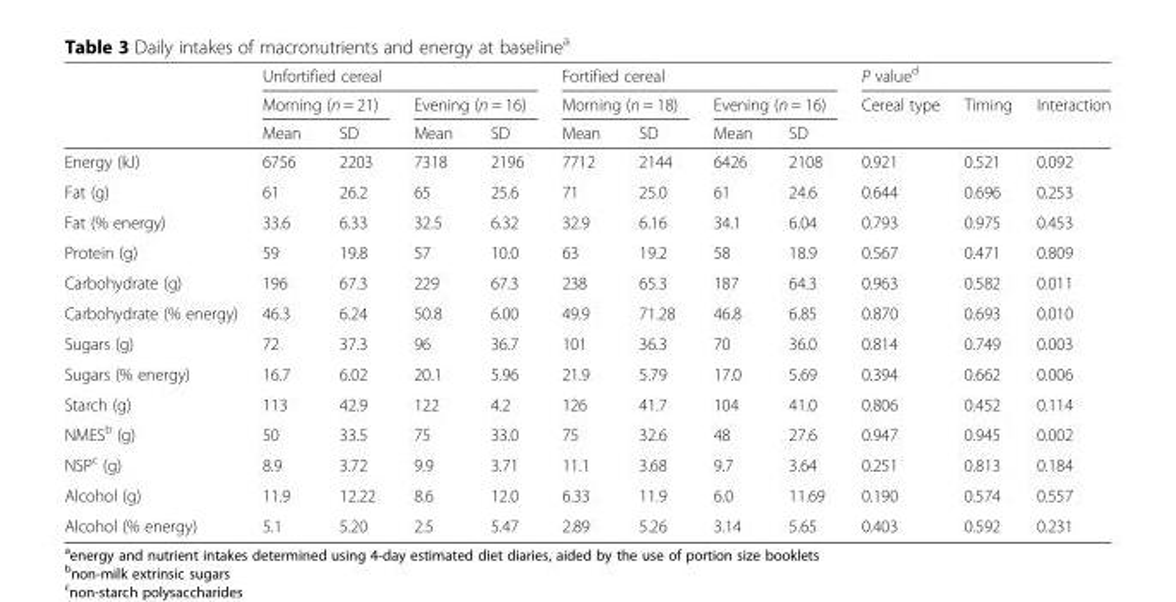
<table><thead><tr><td rowspan="3"></td><td colspan="4">Unfortified cereal</td><td colspan="4">Fortified cereal</td><td colspan="3">P value<sup>d</sup></td></tr><tr><td colspan="2">Morning (n = 21)</td><td colspan="2">Evening (n = 16)</td><td colspan="2">Morning (n = 18)</td><td colspan="2">Evening (n = 16)</td><td rowspan="2">Cereal type</td><td rowspan="2">Timing</td><td rowspan="2">Interaction</td></tr><tr><td>Mean</td><td>SD</td><td>Mean</td><td>SD</td><td>Mean</td><td>SD</td><td>Mean</td><td>SD</td></tr></thead><tbody><tr><td>Energy (kJ)</td><td>6756</td><td>2203</td><td>7318</td><td>2196</td><td>7712</td><td>2144</td><td>6426</td><td>2108</td><td>0.921</td><td>0.521</td><td>0.092</td></tr><tr><td>Fat (g)</td><td>61</td><td>26.2</td><td>65</td><td>25.6</td><td>71</td><td>25.0</td><td>61</td><td>24.6</td><td>0.644</td><td>0.696</td><td>0.253</td></tr><tr><td>Fat (% energy)</td><td>33.6</td><td>6.33</td><td>32.5</td><td>6.32</td><td>32.9</td><td>6.16</td><td>34.1</td><td>6.04</td><td>0.793</td><td>0.975</td><td>0.453</td></tr><tr><td>Protein (g)</td><td>59</td><td>19.8</td><td>57</td><td>10.0</td><td>63</td><td>19.2</td><td>58</td><td>18.9</td><td>0.567</td><td>0.471</td><td>0.809</td></tr><tr><td>Carbohydrate (g)</td><td>196</td><td>67.3</td><td>229</td><td>67.3</td><td>238</td><td>65.3</td><td>187</td><td>64.3</td><td>0.963</td><td>0.582</td><td>0.011</td></tr><tr><td>Carbohydrate (% energy)</td><td>46.3</td><td>6.24</td><td>50.8</td><td>6.00</td><td>49.9</td><td>71.28</td><td>46.8</td><td>6.85</td><td>0.870</td><td>0.693</td><td>0.010</td></tr><tr><td>Sugars (g)</td><td>72</td><td>37.3</td><td>96</td><td>36.7</td><td>101</td><td>36.3</td><td>70</td><td>36.0</td><td>0.814</td><td>0.749</td><td>0.003</td></tr><tr><td>Sugars (% energy)</td><td>16.7</td><td>6.02</td><td>20.1</td><td>5.96</td><td>21.9</td><td>5.79</td><td>17.0</td><td>5.69</td><td>0.394</td><td>0.662</td><td>0.006</td></tr><tr><td>Starch (g)</td><td>113</td><td>42.9</td><td>122</td><td>4.2</td><td>126</td><td>41.7</td><td>104</td><td>41.0</td><td>0.806</td><td>0.452</td><td>0.114</td></tr><tr><td>NMES<sup>b</sup> (g)</td><td>50</td><td>33.5</td><td>75</td><td>33.0</td><td>75</td><td>32.6</td><td>48</td><td>27.6</td><td>0.947</td><td>0.945</td><td>0.002</td></tr><tr><td>NSP<sup>c</sup> (g)</td><td>8.9</td><td>3.72</td><td>9.9</td><td>3.71</td><td>11.1</td><td>3.68</td><td>9.7</td><td>3.64</td><td>0.251</td><td>0.813</td><td>0.184</td></tr><tr><td>Alcohol (g)</td><td>11.9</td><td>12.22</td><td>8.6</td><td>12.0</td><td>6.33</td><td>11.9</td><td>6.0</td><td>11.69</td><td>0.190</td><td>0.574</td><td>0.557</td></tr><tr><td>Alcohol (% energy)</td><td>5.1</td><td>5.20</td><td>2.5</td><td>5.47</td><td>2.89</td><td>5.26</td><td>3.14</td><td>5.65</td><td>0.403</td><td>0.592</td><td>0.231</td></tr></tbody></table>